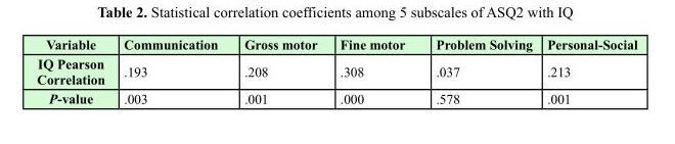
<table><thead><tr><td>Variable</td><td>Communication</td><td>Gross motor</td><td>Fine motor</td><td>Problem Solving</td><td>Personal-Social</td></tr></thead><tbody><tr><td>IQ Pearson Correlation</td><td>.193</td><td>.208</td><td>.308</td><td>.037</td><td>.213</td></tr><tr><td>P-value</td><td>.003</td><td>.001</td><td>.000</td><td>.578</td><td>.001</td></tr></tbody></table>